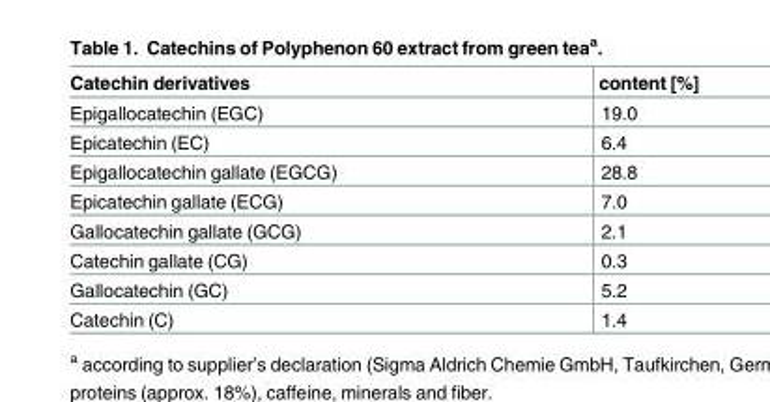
<table><thead><tr><td>Catechin derivatives</td><td>content [%]</td></tr></thead><tbody><tr><td>Epigallocatechin (EGC)</td><td>19.0</td></tr><tr><td>Epicatechin (EC)</td><td>6.4</td></tr><tr><td>Epigallocatechin gallate (EGCG)</td><td>28.8</td></tr><tr><td>Epicatechin gallate (ECG)</td><td>7.0</td></tr><tr><td>Gallocatechin gallate (GCG)</td><td>2.1</td></tr><tr><td>Catechin gallate (CG)</td><td>0.3</td></tr><tr><td>Gallocatechin (GC)</td><td>5.2</td></tr><tr><td>Catechin (C)</td><td>1.4</td></tr></tbody></table>